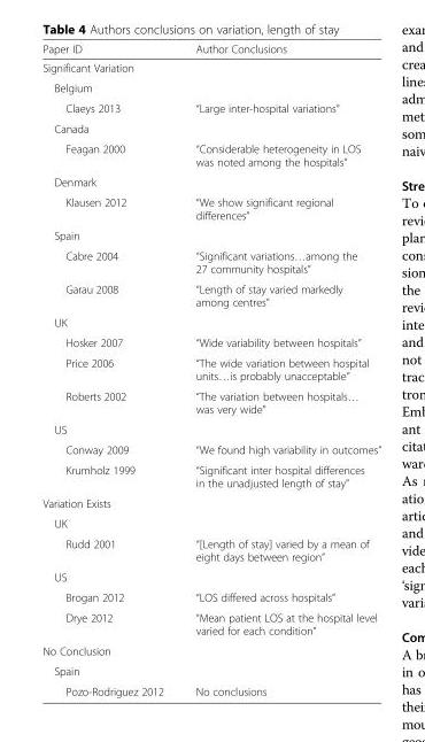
<table><thead><tr><td>Paper ID</td><td>Author Conclusions</td></tr></thead><tbody><tr><td colspan="2">Significant Variation</td></tr><tr><td colspan="2">Belgium</td></tr><tr><td>Claeys 2013</td><td>“Large inter-hospital variations”</td></tr><tr><td colspan="2">Canada</td></tr><tr><td>Feagan 2000</td><td>“Considerable heterogeneity in LOS was noted among the hospitals”</td></tr><tr><td colspan="2">Denmark</td></tr><tr><td>Klausen 2012</td><td>“We show significant regional differences”</td></tr><tr><td colspan="2">Spain</td></tr><tr><td>Cabre 2004</td><td>“Significant variations…among the 27 community hospitals”</td></tr><tr><td>Garau 2008</td><td>“Length of stay varied markedly among centres”</td></tr><tr><td colspan="2">UK</td></tr><tr><td>Hosker 2007</td><td>“Wide variability between hospitals”</td></tr><tr><td>Price 2006</td><td>“The wide variation between hospital units…is probably unacceptable”</td></tr><tr><td>Roberts 2002</td><td>“The variation between hospitals… was very wide”</td></tr><tr><td colspan="2">US</td></tr><tr><td>Conway 2009</td><td>“We found high variability in outcomes”</td></tr><tr><td>Krumholz 1999</td><td>“Significant inter hospital differences in the unadjusted length of stay”</td></tr><tr><td colspan="2">Variation Exists</td></tr><tr><td colspan="2">UK</td></tr><tr><td>Rudd 2001</td><td>“[Length of stay] varied by a mean of eight days between region”</td></tr><tr><td colspan="2">US</td></tr><tr><td>Brogan 2012</td><td>“LOS differed across hospitals”</td></tr><tr><td>Drye 2012</td><td>“Mean patient LOS at the hospital level varied for each condition”</td></tr><tr><td colspan="2">No Conclusion</td></tr><tr><td colspan="2">Spain</td></tr><tr><td>Pozo-Rodriguez 2012</td><td>No conclusions</td></tr></tbody></table>